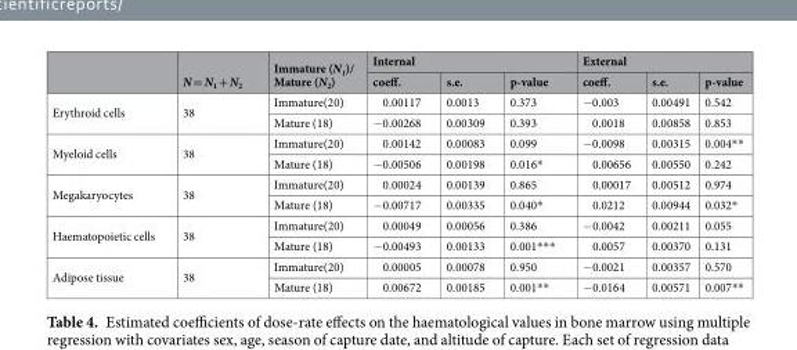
<table><thead><tr><td rowspan="2"></td><td rowspan="2">N = N<sub>1</sub> + N<sub>2</sub></td><td rowspan="2">Immature (N<sub>1</sub>)/ Mature (N<sub>2</sub>)</td><td colspan="3">Internal</td><td colspan="3">External</td></tr><tr><td>coeff.</td><td>s.e.</td><td>p-value</td><td>coeff.</td><td>s.e.</td><td>p-value</td></tr></thead><tbody><tr><td rowspan="2">Erythroid cells</td><td rowspan="2">38</td><td>Immature(20)</td><td>0.00117</td><td>0.0013</td><td>0.373</td><td>−0.003</td><td>0.00491</td><td>0.542</td></tr><tr><td>Mature (18)</td><td>−0.00268</td><td>0.00309</td><td>0.393</td><td>0.0018</td><td>0.00858</td><td>0.853</td></tr><tr><td rowspan="2">Myeloid cells</td><td rowspan="2">38</td><td>Immature(20)</td><td>0.00142</td><td>0.00083</td><td>0.099</td><td>−0.0098</td><td>0.00315</td><td>0.004**</td></tr><tr><td>Mature (18)</td><td>−0.00506</td><td>0.00198</td><td>0.016*</td><td>0.00656</td><td>0.00550</td><td>0.242</td></tr><tr><td rowspan="2">Megakaryocytes</td><td rowspan="2">38</td><td>Immature(20)</td><td>0.00024</td><td>0.00139</td><td>0.865</td><td>0.00017</td><td>0.00512</td><td>0.974</td></tr><tr><td>Mature (18)</td><td>−0.00717</td><td>0.00335</td><td>0.040*</td><td>0.0212</td><td>0.00944</td><td>0.032*</td></tr><tr><td rowspan="2">Haematopoietic cells</td><td rowspan="2">38</td><td>Immature(20)</td><td>0.00049</td><td>0.00056</td><td>0.386</td><td>−0.0042</td><td>0.00211</td><td>0.055</td></tr><tr><td>Mature (18)</td><td>−0.00493</td><td>0.00133</td><td>0.001***</td><td>0.0057</td><td>0.00370</td><td>0.131</td></tr><tr><td rowspan="2">Adipose tissue</td><td rowspan="2">38</td><td>Immature(20)</td><td>0.00005</td><td>0.00078</td><td>0.950</td><td>−0.0021</td><td>0.00357</td><td>0.570</td></tr><tr><td>Mature (18)</td><td>0.00672</td><td>0.00185</td><td>0.001**</td><td>−0.0164</td><td>0.00571</td><td>0.007**</td></tr></tbody></table>